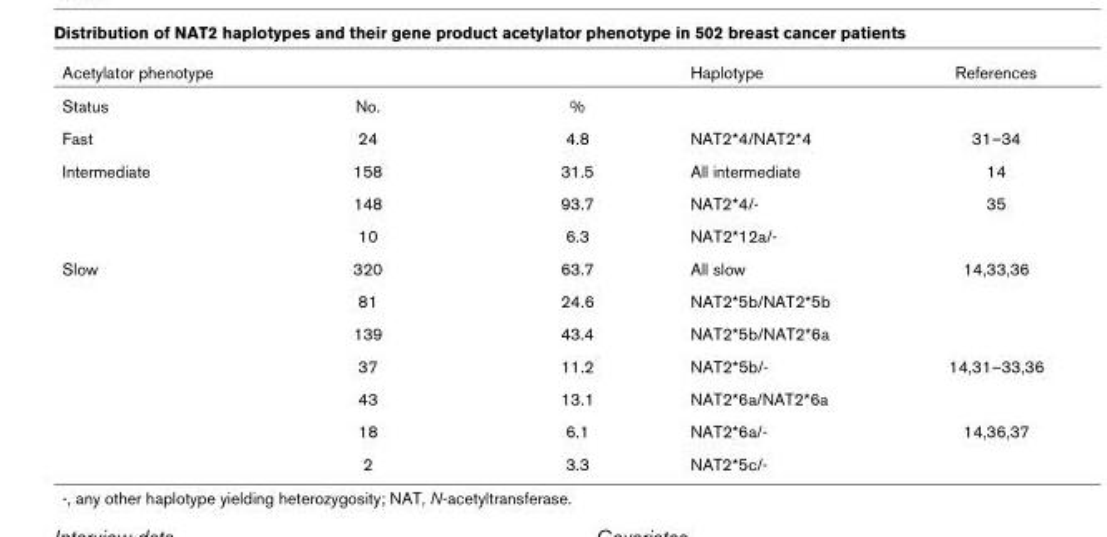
<table><thead><tr><td colspan="3">Acetylator phenotype</td><td rowspan="2">Haplotype</td><td rowspan="2">References</td></tr><tr><td>Status</td><td>No.</td><td>%</td></tr></thead><tbody><tr><td>Fast</td><td>24</td><td>4.8</td><td>NAT2*4/NAT2*4</td><td>31–34</td></tr><tr><td rowspan="3">Intermediate</td><td>158</td><td>31.5</td><td>All intermediate</td><td>14</td></tr><tr><td>148</td><td>93.7</td><td>NAT2*4/-</td><td>35</td></tr><tr><td>10</td><td>6.3</td><td>NAT2*12a/-</td><td></td></tr><tr><td rowspan="7">Slow</td><td>320</td><td>63.7</td><td>All slow</td><td>14,33,36</td></tr><tr><td>81</td><td>24.6</td><td>NAT2*5b/NAT2*5b</td><td></td></tr><tr><td>139</td><td>43.4</td><td>NAT2*5b/NAT2*6a</td><td></td></tr><tr><td>37</td><td>11.2</td><td>NAT2*5b/-</td><td>14,31–33,36</td></tr><tr><td>43</td><td>13.1</td><td>NAT2*6a/NAT2*6a</td><td></td></tr><tr><td>18</td><td>6.1</td><td>NAT2*6a/-</td><td>14,36,37</td></tr><tr><td>2</td><td>3.3</td><td>NAT2*5c/-</td><td></td></tr></tbody></table>